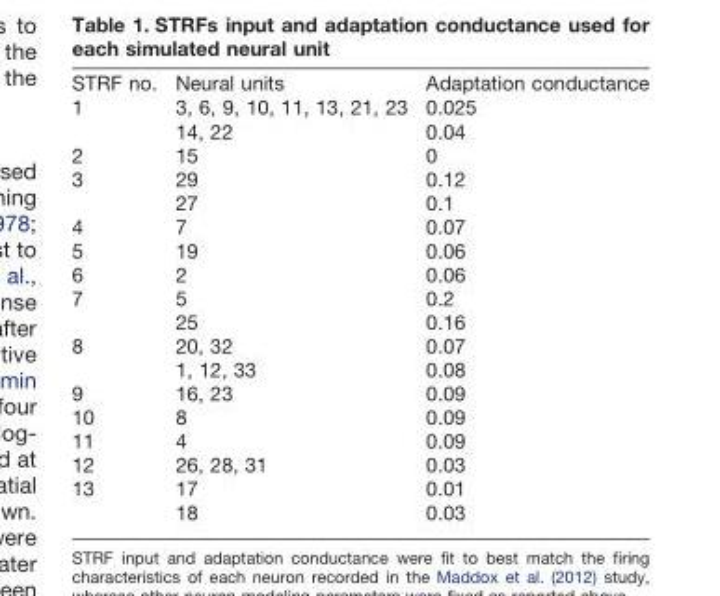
<table><thead><tr><td>STRF no.</td><td>Neural units</td><td>Adaptation conductance</td></tr></thead><tbody><tr><td rowspan="2">1</td><td>3, 6, 9, 10, 11, 13, 21, 23</td><td>0.025</td></tr><tr><td>14, 22</td><td>0.04</td></tr><tr><td>2</td><td>15</td><td>0</td></tr><tr><td rowspan="2">3</td><td>29</td><td>0.12</td></tr><tr><td>27</td><td>0.1</td></tr><tr><td>4</td><td>7</td><td>0.07</td></tr><tr><td>5</td><td>19</td><td>0.06</td></tr><tr><td>6</td><td>2</td><td>0.06</td></tr><tr><td rowspan="2">7</td><td>5</td><td>0.2</td></tr><tr><td>25</td><td>0.16</td></tr><tr><td rowspan="2">8</td><td>20, 32</td><td>0.07</td></tr><tr><td>1, 12, 33</td><td>0.08</td></tr><tr><td>9</td><td>16, 23</td><td>0.09</td></tr><tr><td>10</td><td>8</td><td>0.09</td></tr><tr><td>11</td><td>4</td><td>0.09</td></tr><tr><td>12</td><td>26, 28, 31</td><td>0.03</td></tr><tr><td rowspan="2">13</td><td>17</td><td>0.01</td></tr><tr><td>18</td><td>0.03</td></tr></tbody></table>